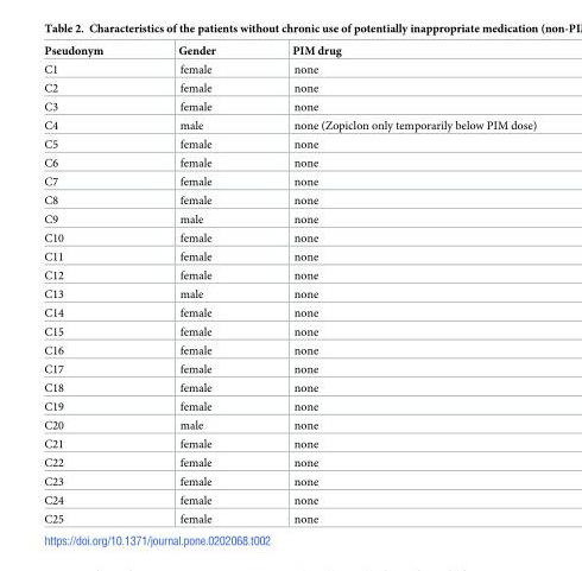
<table><thead><tr><td>Pseudonym</td><td>Gender</td><td>PIM drug</td></tr></thead><tbody><tr><td>C1</td><td>female</td><td>none</td></tr><tr><td>C2</td><td>female</td><td>none</td></tr><tr><td>C3</td><td>female</td><td>none</td></tr><tr><td>C4</td><td>male</td><td>none (Zopiclon only temporarily below PIM dose)</td></tr><tr><td>C5</td><td>female</td><td>none</td></tr><tr><td>C6</td><td>female</td><td>none</td></tr><tr><td>C7</td><td>female</td><td>none</td></tr><tr><td>C8</td><td>female</td><td>none</td></tr><tr><td>C9</td><td>male</td><td>none</td></tr><tr><td>C10</td><td>female</td><td>none</td></tr><tr><td>C11</td><td>female</td><td>none</td></tr><tr><td>C12</td><td>female</td><td>none</td></tr><tr><td>C13</td><td>male</td><td>none</td></tr><tr><td>C14</td><td>female</td><td>none</td></tr><tr><td>C15</td><td>female</td><td>none</td></tr><tr><td>C16</td><td>female</td><td>none</td></tr><tr><td>C17</td><td>female</td><td>none</td></tr><tr><td>C18</td><td>female</td><td>none</td></tr><tr><td>C19</td><td>female</td><td>none</td></tr><tr><td>C20</td><td>male</td><td>none</td></tr><tr><td>C21</td><td>female</td><td>none</td></tr><tr><td>C22</td><td>female</td><td>none</td></tr><tr><td>C23</td><td>female</td><td>none</td></tr><tr><td>C24</td><td>female</td><td>none</td></tr><tr><td>C25</td><td>female</td><td>none</td></tr></tbody></table>